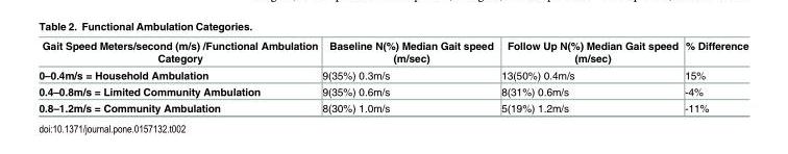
<table><thead><tr><td>Gait Speed Meters/second (m/s) /Functional Ambulation Category</td><td>Baseline N(%) Median Gait speed (m/sec)</td><td>Follow Up N(%) Median Gait speed (m/sec)</td><td>% Difference</td></tr></thead><tbody><tr><td>0–0.4m/s = Household Ambulation</td><td>9(35%) 0.3m/s</td><td>13(50%) 0.4m/s</td><td>15%</td></tr><tr><td>0.4–0.8m/s = Limited Community Ambulation</td><td>9(35%) 0.6m/s</td><td>8(31%) 0.6m/s</td><td>-4%</td></tr><tr><td>0.8–1.2m/s = Community Ambulation</td><td>8(30%) 1.0m/s</td><td>5(19%) 1.2m/s</td><td>-11%</td></tr></tbody></table>